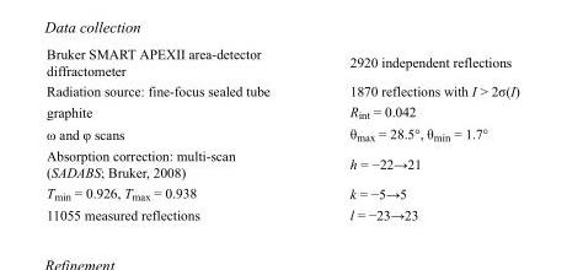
<table><tbody><tr><td>Bruker SMART APEXII area-detector diffractometer</td><td>2920 independent reflections</td></tr><tr><td>Radiation source: fine-focus sealed tube</td><td>1870 reflections with I &gt; 2σ(I)</td></tr><tr><td>graphite</td><td>R<sub>int</sub> = 0.042</td></tr><tr><td>ω and φ scans</td><td>θ<sub>max</sub> = 28.5°, θ<sub>min</sub> = 1.7°</td></tr><tr><td>Absorption correction: multi-scan (SADABS; Bruker, 2008)</td><td>h = −22→21</td></tr><tr><td>T<sub>min</sub> = 0.926, T<sub>max</sub> = 0.938</td><td>k = −5→5</td></tr><tr><td>11055 measured reflections</td><td>l = −23→23</td></tr></tbody></table>